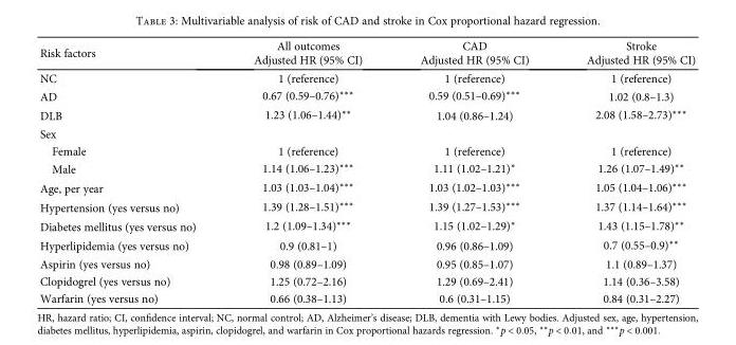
<table><thead><tr><td rowspan="2">Risk factors</td><td rowspan="2">All outcomes Adjusted HR (95% CI)</td><td rowspan="2">CAD Adjusted HR (95% CI)</td><td rowspan="2">Stroke Adjusted HR (95% CI)</td></tr><tr></tr></thead><tbody><tr><td>NC</td><td>1 (reference)</td><td>1 (reference)</td><td>1 (reference)</td></tr><tr><td>AD</td><td>0.67 (0.59–0.76)∗∗∗</td><td>0.59 (0.51–0.69)∗∗∗</td><td>1.02 (0.8–1.3)</td></tr><tr><td>DLB</td><td>1.23 (1.06–1.44)∗∗</td><td>1.04 (0.86–1.24)</td><td>2.08 (1.58–2.73)∗∗∗</td></tr><tr><td colspan="4">Sex</td></tr><tr><td>Female</td><td>1 (reference)</td><td>1 (reference)</td><td>1 (reference)</td></tr><tr><td>Male</td><td>1.14 (1.06–1.23)∗∗∗</td><td>1.11 (1.02–1.21)∗</td><td>1.26 (1.07–1.49)∗∗</td></tr><tr><td>Age, per year</td><td>1.03 (1.03–1.04)∗∗∗</td><td>1.03 (1.02–1.03)∗∗∗</td><td>1.05 (1.04–1.06)∗∗∗</td></tr><tr><td>Hypertension (yes versus no)</td><td>1.39 (1.28–1.51)∗∗∗</td><td>1.39 (1.27–1.53)∗∗∗</td><td>1.37 (1.14–1.64)∗∗∗</td></tr><tr><td>Diabetes mellitus (yes versus no)</td><td>1.2 (1.09–1.34)∗∗∗</td><td>1.15 (1.02–1.29)∗</td><td>1.43 (1.15–1.78)∗∗</td></tr><tr><td>Hyperlipidemia (yes versus no)</td><td>0.9 (0.81–1)</td><td>0.96 (0.86–1.09)</td><td>0.7 (0.55–0.9)∗∗</td></tr><tr><td>Aspirin (yes versus no)</td><td>0.98 (0.89–1.09)</td><td>0.95 (0.85–1.07)</td><td>1.1 (0.89–1.37)</td></tr><tr><td>Clopidogrel (yes versus no)</td><td>1.25 (0.72–2.16)</td><td>1.29 (0.69–2.41)</td><td>1.14 (0.36–3.58)</td></tr><tr><td>Warfarin (yes versus no)</td><td>0.66 (0.38–1.13)</td><td>0.6 (0.31–1.15)</td><td>0.84 (0.31–2.27)</td></tr></tbody></table>